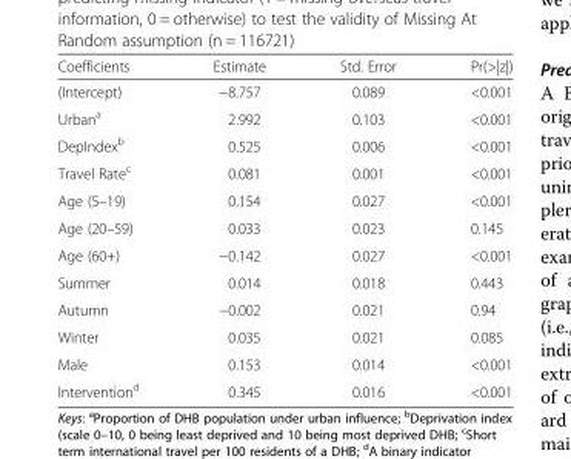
<table><thead><tr><td>Coefficients</td><td>Estimate</td><td>Std. Error</td><td>Pr(&gt;|z|)</td></tr></thead><tbody><tr><td>(Intercept)</td><td>−8.757</td><td>0.089</td><td>&lt;0.001</td></tr><tr><td>Urban<sup>a</sup></td><td>2.992</td><td>0.103</td><td>&lt;0.001</td></tr><tr><td>DepIndex<sup>b</sup></td><td>0.525</td><td>0.006</td><td>&lt;0.001</td></tr><tr><td>Travel Rate<sup>c</sup></td><td>0.081</td><td>0.001</td><td>&lt;0.001</td></tr><tr><td>Age (5–19)</td><td>0.154</td><td>0.027</td><td>&lt;0.001</td></tr><tr><td>Age (20–59)</td><td>0.033</td><td>0.023</td><td>0.145</td></tr><tr><td>Age (60+)</td><td>−0.142</td><td>0.027</td><td>&lt;0.001</td></tr><tr><td>Summer</td><td>0.014</td><td>0.018</td><td>0.443</td></tr><tr><td>Autumn</td><td>−0.002</td><td>0.021</td><td>0.94</td></tr><tr><td>Winter</td><td>0.035</td><td>0.021</td><td>0.085</td></tr><tr><td>Male</td><td>0.153</td><td>0.014</td><td>&lt;0.001</td></tr><tr><td>Intervention<sup>d</sup></td><td>0.345</td><td>0.016</td><td>&lt;0.001</td></tr></tbody></table>